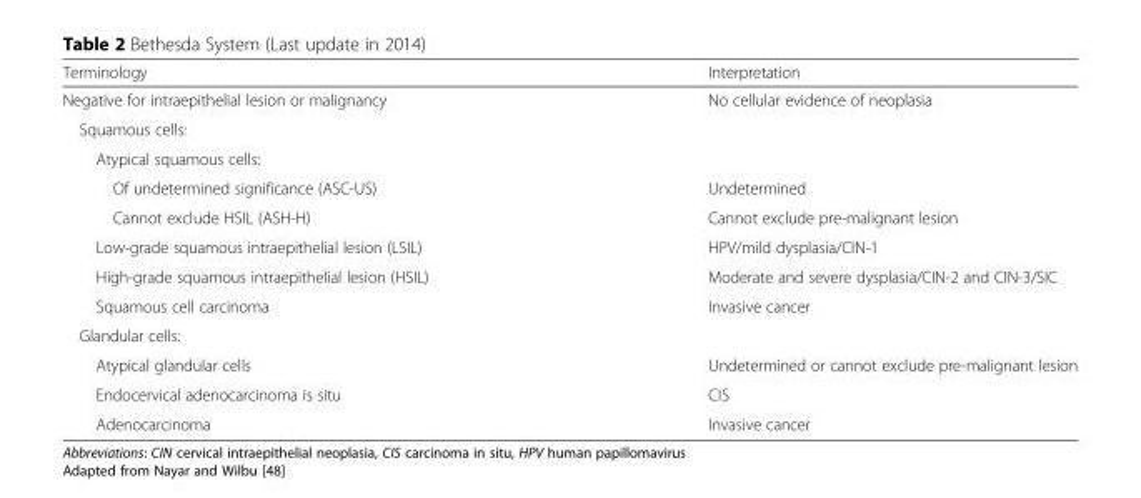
<table><thead><tr><td>Terminology</td><td>Interpretation</td></tr></thead><tbody><tr><td>Negative for intraepithelial lesion or malignancy</td><td>No cellular evidence of neoplasia</td></tr><tr><td colspan="2">Squamous cells:</td></tr><tr><td colspan="2">Atypical squamous cells:</td></tr><tr><td>Of undetermined significance (ASC-US)</td><td>Undetermined</td></tr><tr><td>Cannot exclude HSIL (ASH-H)</td><td>Cannot exclude pre-malignant lesion</td></tr><tr><td>Low-grade squamous intraepithelial lesion (LSIL)</td><td>HPV/mild dysplasia/CIN-1</td></tr><tr><td>High-grade squamous intraepithelial lesion (HSIL)</td><td>Moderate and severe dysplasia/CIN-2 and CIN-3/SIC</td></tr><tr><td>Squamous cell carcinoma</td><td>Invasive cancer</td></tr><tr><td colspan="2">Glandular cells:</td></tr><tr><td>Atypical glandular cells</td><td>Undetermined or cannot exclude pre-malignant lesion</td></tr><tr><td>Endocervical adenocarcinoma is situ</td><td>CIS</td></tr><tr><td>Adenocarcinoma</td><td>Invasive cancer</td></tr></tbody></table>